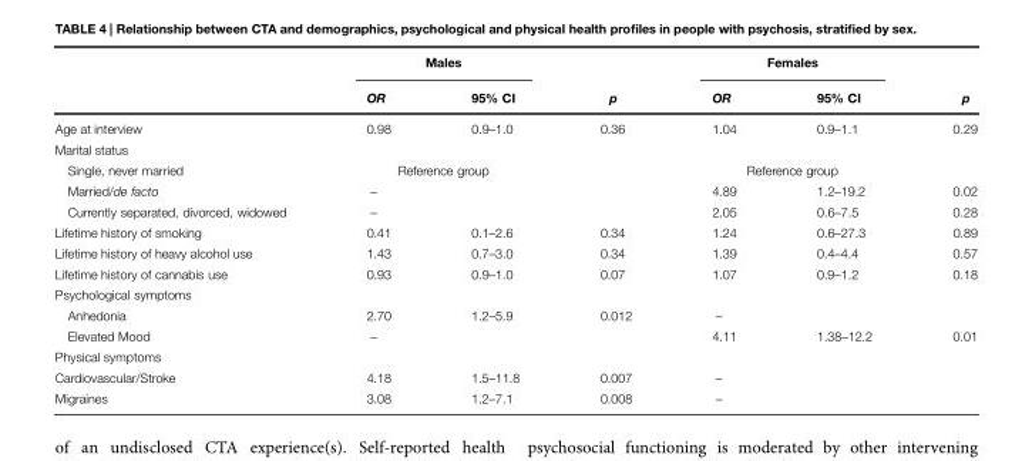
<table><thead><tr><td rowspan="2"></td><td colspan="2">Males</td><td rowspan="2">p</td><td colspan="2">Females</td><td rowspan="2">p</td></tr><tr><td>OR</td><td>95% CI</td><td>OR</td><td>95% CI</td></tr></thead><tbody><tr><td>Age at interview</td><td>0.98</td><td>0.9–1.0</td><td>0.36</td><td>1.04</td><td>0.9–1.1</td><td>0.29</td></tr><tr><td colspan="7">Marital status</td></tr><tr><td>Single, never married</td><td colspan="2">Reference group</td><td></td><td colspan="2">Reference group</td><td></td></tr><tr><td>Married/de facto</td><td>–</td><td></td><td></td><td>4.89</td><td>1.2–19.2</td><td>0.02</td></tr><tr><td>Currently separated, divorced, widowed</td><td>–</td><td></td><td></td><td>2.05</td><td>0.6–7.5</td><td>0.28</td></tr><tr><td>Lifetime history of smoking</td><td>0.41</td><td>0.1–2.6</td><td>0.34</td><td>1.24</td><td>0.6–27.3</td><td>0.89</td></tr><tr><td>Lifetime history of heavy alcohol use</td><td>1.43</td><td>0.7–3.0</td><td>0.34</td><td>1.39</td><td>0.4–4.4</td><td>0.57</td></tr><tr><td>Lifetime history of cannabis use</td><td>0.93</td><td>0.9–1.0</td><td>0.07</td><td>1.07</td><td>0.9–1.2</td><td>0.18</td></tr><tr><td colspan="7">Psychological symptoms</td></tr><tr><td>Anhedonia</td><td>2.70</td><td>1.2–5.9</td><td>0.012</td><td>–</td><td></td><td></td></tr><tr><td>Elevated Mood</td><td>–</td><td></td><td></td><td>4.11</td><td>1.38–12.2</td><td>0.01</td></tr><tr><td colspan="7">Physical symptoms</td></tr><tr><td>Cardiovascular/Stroke</td><td>4.18</td><td>1.5–11.8</td><td>0.007</td><td>–</td><td></td><td></td></tr><tr><td>Migraines</td><td>3.08</td><td>1.2–7.1</td><td>0.008</td><td>–</td><td></td><td></td></tr></tbody></table>